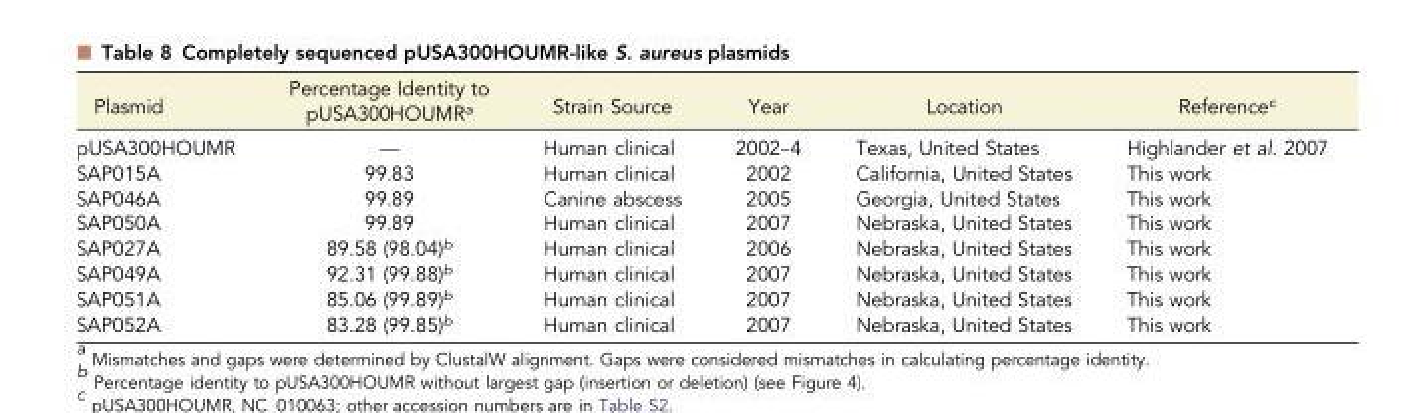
<table><thead><tr><td>Plasmid</td><td>Percentage Identity to pUSA300HOUMR<sup>a</sup></td><td>Strain Source</td><td>Year</td><td>Location</td><td>Reference<sup>c</sup></td></tr></thead><tbody><tr><td>pUSA300HOUMR</td><td>—</td><td>Human clinical</td><td>2002–4</td><td>Texas, United States</td><td>Highlander et al. 2007</td></tr><tr><td>SAP015A</td><td>99.83</td><td>Human clinical</td><td>2002</td><td>California, United States</td><td>This work</td></tr><tr><td>SAP046A</td><td>99.89</td><td>Canine abscess</td><td>2005</td><td>Georgia, United States</td><td>This work</td></tr><tr><td>SAP050A</td><td>99.89</td><td>Human clinical</td><td>2007</td><td>Nebraska, United States</td><td>This work</td></tr><tr><td>SAP027A</td><td>89.58 (98.04)<sup>b</sup></td><td>Human clinical</td><td>2006</td><td>Nebraska, United States</td><td>This work</td></tr><tr><td>SAP049A</td><td>92.31 (99.88)<sup>b</sup></td><td>Human clinical</td><td>2007</td><td>Nebraska, United States</td><td>This work</td></tr><tr><td>SAP051A</td><td>85.06 (99.89)<sup>b</sup></td><td>Human clinical</td><td>2007</td><td>Nebraska, United States</td><td>This work</td></tr><tr><td>SAP052A</td><td>83.28 (99.85)<sup>b</sup></td><td>Human clinical</td><td>2007</td><td>Nebraska, United States</td><td>This work</td></tr></tbody></table>